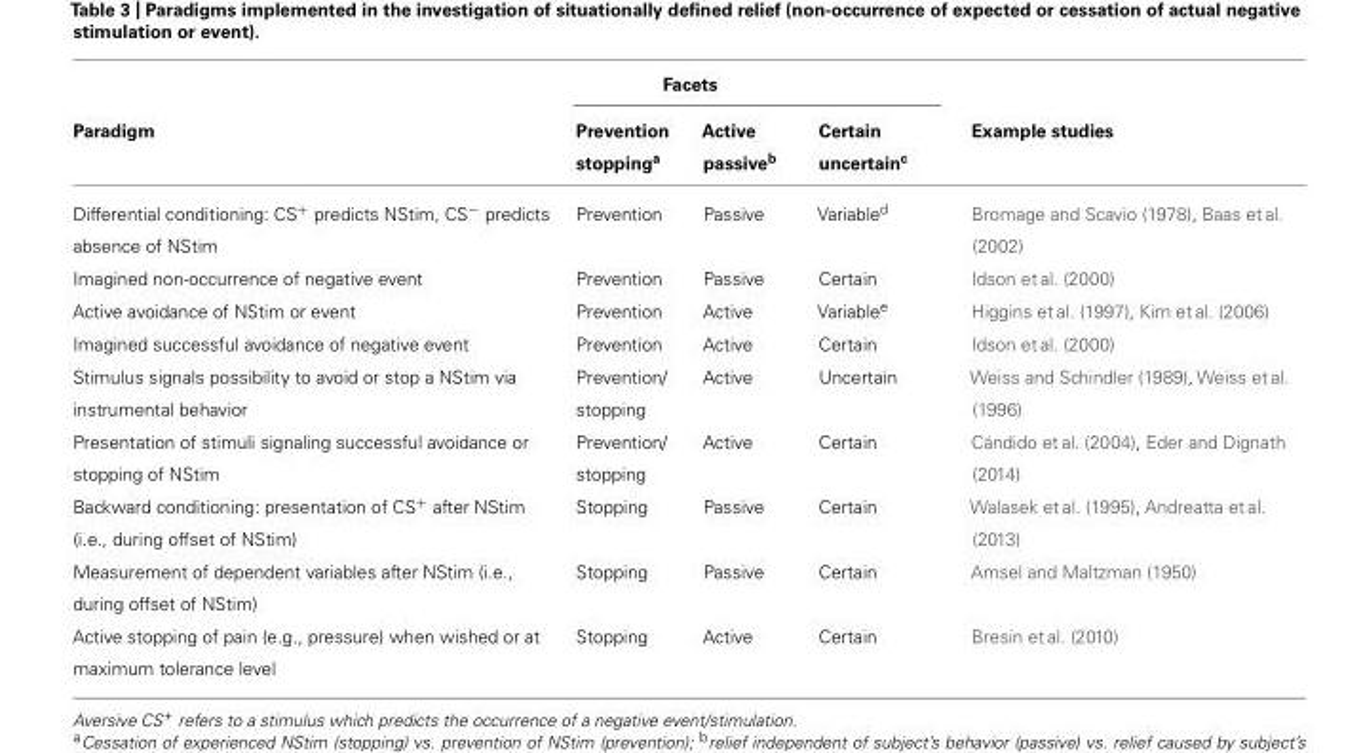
<table><thead><tr><td colspan="5">Facets</td></tr><tr><td>Paradigm</td><td>Prevention stopping<sup>a</sup></td><td>Active passive<sup>b</sup></td><td>Certain uncertain<sup>c</sup></td><td>Example studies</td></tr></thead><tbody><tr><td>Differential conditioning: CS<sup>+</sup> predicts NStim, CS<sup>−</sup> predicts absence of NStim</td><td>Prevention</td><td>Passive</td><td>Variable<sup>d</sup></td><td>Bromage and Scavio (1978), Baas et al. (2002)</td></tr><tr><td>Imagined non-occurrence of negative event</td><td>Prevention</td><td>Passive</td><td>Certain</td><td>Idson et al. (2000)</td></tr><tr><td>Active avoidance of NStim or event</td><td>Prevention</td><td>Active</td><td>Variable<sup>e</sup></td><td>Higgins et al. (1997), Kim et al. (2006)</td></tr><tr><td>Imagined successful avoidance of negative event</td><td>Prevention</td><td>Active</td><td>Certain</td><td>Idson et al. (2000)</td></tr><tr><td>Stimulus signals possibility to avoid or stop a NStim via instrumental behavior</td><td>Prevention/ stopping</td><td>Active</td><td>Uncertain</td><td>Weiss and Schindler (1989), Weiss et al. (1996)</td></tr><tr><td>Presentation of stimuli signaling successful avoidance or stopping of NStim</td><td>Prevention/ stopping</td><td>Active</td><td>Certain</td><td>Cándido et al. (2004), Eder and Dignath (2014)</td></tr><tr><td>Backward conditioning: presentation of CS<sup>+</sup> after NStim (i.e., during offset of NStim)</td><td>Stopping</td><td>Passive</td><td>Certain</td><td>Walasek et al. (1995), Andreatta et al. (2013)</td></tr><tr><td>Measurement of dependent variables after NStim (i.e., during offset of NStim)</td><td>Stopping</td><td>Passive</td><td>Certain</td><td>Amsel and Maltzman (1950)</td></tr><tr><td>Active stopping of pain (e.g., pressure) when wished or at maximum tolerance level</td><td>Stopping</td><td>Active</td><td>Certain</td><td>Bresin et al. (2010)</td></tr></tbody></table>